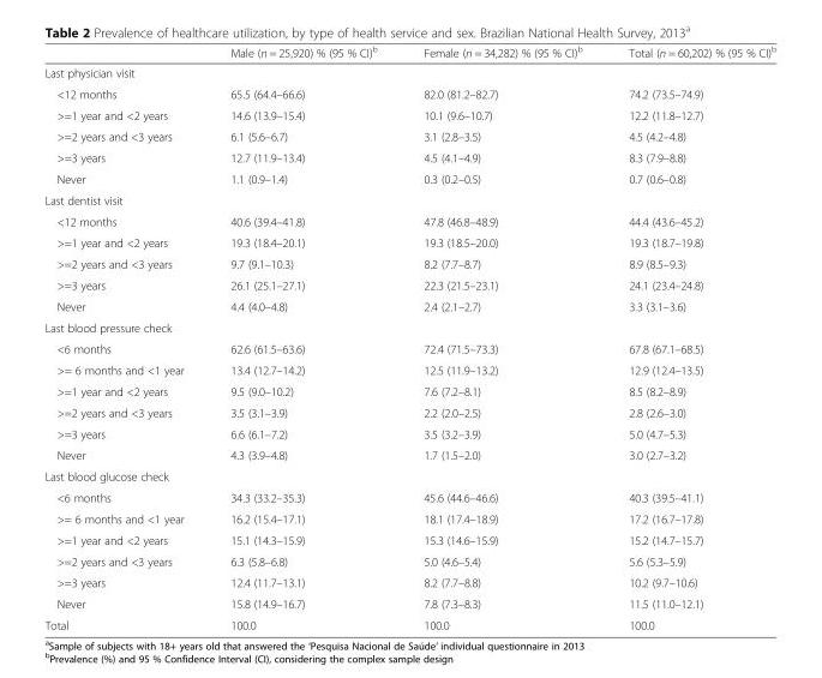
<table><thead><tr><td></td><td>Male (n = 25,920) % (95 % CI)<sup>b</sup></td><td>Female (n = 34,282) % (95 % CI)<sup>b</sup></td><td>Total (n = 60,202) % (95 % CI)<sup>b</sup></td></tr></thead><tbody><tr><td colspan="4">Last physician visit</td></tr><tr><td>&lt;12 months</td><td>65.5 (64.4–66.6)</td><td>82.0 (81.2–82.7)</td><td>74.2 (73.5–74.9)</td></tr><tr><td>&gt;=1 year and &lt;2 years</td><td>14.6 (13.9–15.4)</td><td>10.1 (9.6–10.7)</td><td>12.2 (11.8–12.7)</td></tr><tr><td>&gt;=2 years and &lt;3 years</td><td>6.1 (5.6–6.7)</td><td>3.1 (2.8–3.5)</td><td>4.5 (4.2–4.8)</td></tr><tr><td>&gt;=3 years</td><td>12.7 (11.9–13.4)</td><td>4.5 (4.1–4.9)</td><td>8.3 (7.9–8.8)</td></tr><tr><td>Never</td><td>1.1 (0.9–1.4)</td><td>0.3 (0.2–0.5)</td><td>0.7 (0.6–0.8)</td></tr><tr><td colspan="4">Last dentist visit</td></tr><tr><td>&lt;12 months</td><td>40.6 (39.4–41.8)</td><td>47.8 (46.8–48.9)</td><td>44.4 (43.6–45.2)</td></tr><tr><td>&gt;=1 year and &lt;2 years</td><td>19.3 (18.4–20.1)</td><td>19.3 (18.5–20.0)</td><td>19.3 (18.7–19.8)</td></tr><tr><td>&gt;=2 years and &lt;3 years</td><td>9.7 (9.1–10.3)</td><td>8.2 (7.7–8.7)</td><td>8.9 (8.5–9.3)</td></tr><tr><td>&gt;=3 years</td><td>26.1 (25.1–27.1)</td><td>22.3 (21.5–23.1)</td><td>24.1 (23.4–24.8)</td></tr><tr><td>Never</td><td>4.4 (4.0–4.8)</td><td>2.4 (2.1–2.7)</td><td>3.3 (3.1–3.6)</td></tr><tr><td colspan="4">Last blood pressure check</td></tr><tr><td>&lt;6 months</td><td>62.6 (61.5–63.6)</td><td>72.4 (71.5–73.3)</td><td>67.8 (67.1–68.5)</td></tr><tr><td>&gt;= 6 months and &lt;1 year</td><td>13.4 (12.7–14.2)</td><td>12.5 (11.9–13.2)</td><td>12.9 (12.4–13.5)</td></tr><tr><td>&gt;=1 year and &lt;2 years</td><td>9.5 (9.0–10.2)</td><td>7.6 (7.2–8.1)</td><td>8.5 (8.2–8.9)</td></tr><tr><td>&gt;=2 years and &lt;3 years</td><td>3.5 (3.1–3.9)</td><td>2.2 (2.0–2.5)</td><td>2.8 (2.6–3.0)</td></tr><tr><td>&gt;=3 years</td><td>6.6 (6.1–7.2)</td><td>3.5 (3.2–3.9)</td><td>5.0 (4.7–5.3)</td></tr><tr><td>Never</td><td>4.3 (3.9–4.8)</td><td>1.7 (1.5–2.0)</td><td>3.0 (2.7–3.2)</td></tr><tr><td colspan="4">Last blood glucose check</td></tr><tr><td>&lt;6 months</td><td>34.3 (33.2–35.3)</td><td>45.6 (44.6–46.6)</td><td>40.3 (39.5–41.1)</td></tr><tr><td>&gt;= 6 months and &lt;1 year</td><td>16.2 (15.4–17.1)</td><td>18.1 (17.4–18.9)</td><td>17.2 (16.7–17.8)</td></tr><tr><td>&gt;=1 year and &lt;2 years</td><td>15.1 (14.3–15.9)</td><td>15.3 (14.6–15.9)</td><td>15.2 (14.7–15.7)</td></tr><tr><td>&gt;=2 years and &lt;3 years</td><td>6.3 (5.8–6.8)</td><td>5.0 (4.6–5.4)</td><td>5.6 (5.3–5.9)</td></tr><tr><td>&gt;=3 years</td><td>12.4 (11.7–13.1)</td><td>8.2 (7.7–8.8)</td><td>10.2 (9.7–10.6)</td></tr><tr><td>Never</td><td>15.8 (14.9–16.7)</td><td>7.8 (7.3–8.3)</td><td>11.5 (11.0–12.1)</td></tr><tr><td>Total</td><td>100.0</td><td>100.0</td><td>100.0</td></tr></tbody></table>